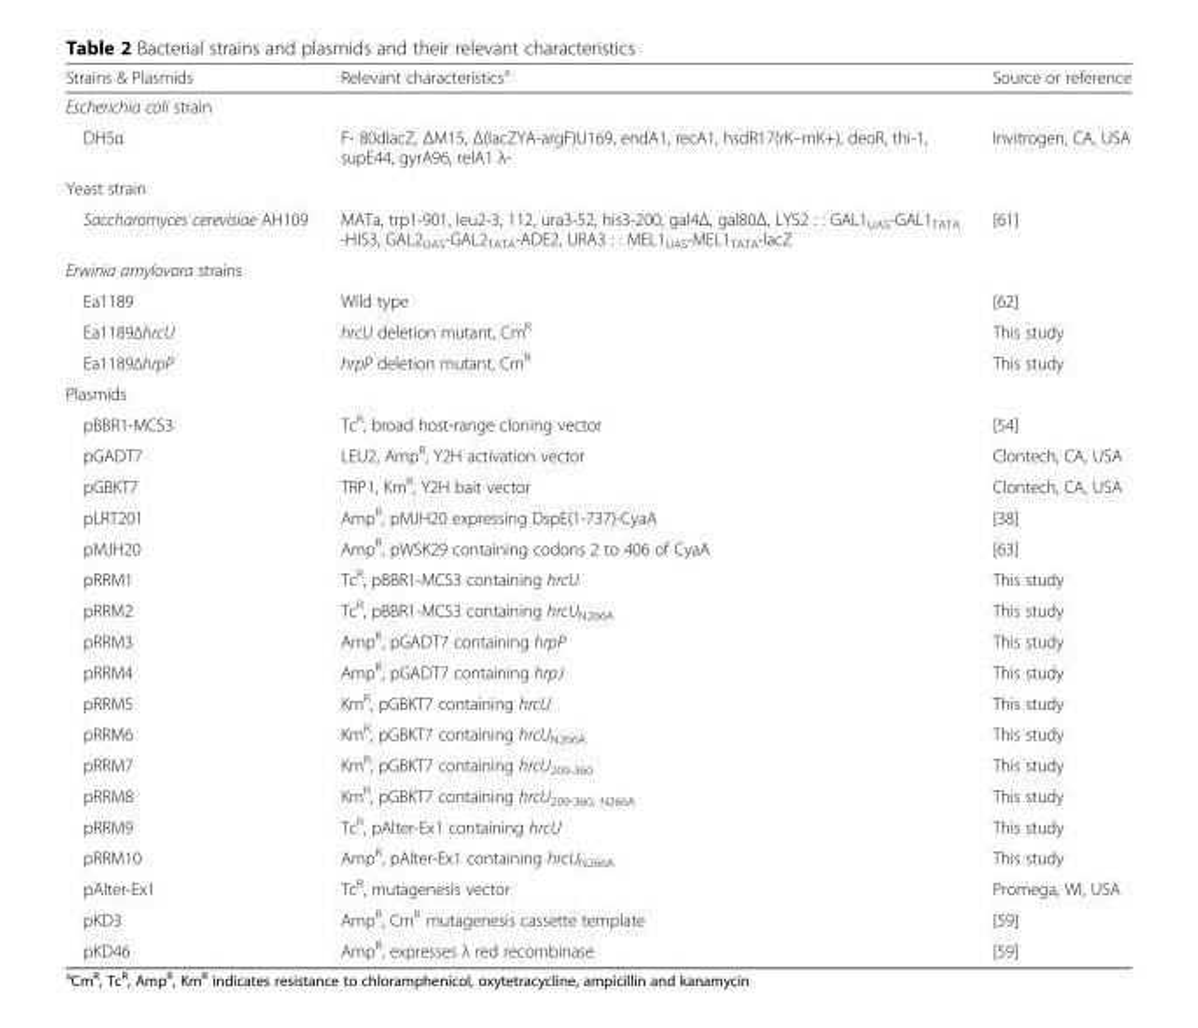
<table><thead><tr><td>Strains &amp; Plasmids</td><td>Relevant characteristics<sup>a</sup></td><td>Source or reference</td></tr></thead><tbody><tr><td colspan="3">Escherichia coli strain</td></tr><tr><td>DH5α</td><td>F- 80dlacZ, ΔM15, Δ(lacZYA-argF)U169, endA1, recA1, hsdR17(rK–mK+), deoR, thi-1, supE44, gyrA96, relA1 λ-</td><td>Invitrogen, CA, USA</td></tr><tr><td colspan="3">Yeast strain</td></tr><tr><td>Saccharomyces cerevisiae AH109</td><td>MATa, trp1-901, leu2-3, 112, ura3-52, his3-200, gal4Δ, gal80Δ, LYS2 : : GAL1<sub>UAS</sub>-GAL1<sub>TATA</sub> -HIS3, GAL2<sub>UAS</sub>-GAL2<sub>TATA</sub>-ADE2, URA3 : : MEL1<sub>UAS</sub>-MEL1<sub>TATA</sub>-lacZ</td><td>[61]</td></tr><tr><td colspan="3">Erwinia amylovora strains</td></tr><tr><td>Ea1189</td><td>Wild type</td><td>[62]</td></tr><tr><td>Ea1189ΔhrcU</td><td>hrcU deletion mutant, Cm<sup>R</sup></td><td>This study</td></tr><tr><td>Ea1189ΔhrpP</td><td>hrpP deletion mutant, Cm<sup>R</sup></td><td>This study</td></tr><tr><td colspan="3">Plasmids</td></tr><tr><td>pBBR1-MCS3</td><td>Tc<sup>R</sup>, broad host-range cloning vector</td><td>[54]</td></tr><tr><td>pGADT7</td><td>LEU2, Amp<sup>R</sup>, Y2H activation vector</td><td>Clontech, CA, USA</td></tr><tr><td>pGBKT7</td><td>TRP1, Km<sup>R</sup>, Y2H bait vector</td><td>Clontech, CA, USA</td></tr><tr><td>pLRT201</td><td>Amp<sup>R</sup>, pMJH20 expressing DspE(1-737)-CyaA</td><td>[38]</td></tr><tr><td>pMJH20</td><td>Amp<sup>R</sup>, pWSK29 containing codons 2 to 406 of CyaA</td><td>[63]</td></tr><tr><td>pRRM1</td><td>Tc<sup>R</sup>, pBBR1-MCS3 containing hrcU</td><td>This study</td></tr><tr><td>pRRM2</td><td>Tc<sup>R</sup>, pBBR1-MCS3 containing hrcU<sub>N266A</sub></td><td>This study</td></tr><tr><td>pRRM3</td><td>Amp<sup>R</sup>, pGADT7 containing hrpP</td><td>This study</td></tr><tr><td>pRRM4</td><td>Amp<sup>R</sup>, pGADT7 containing hrpJ</td><td>This study</td></tr><tr><td>pRRM5</td><td>Km<sup>R</sup>, pGBKT7 containing hrcU</td><td>This study</td></tr><tr><td>pRRM6</td><td>Km<sup>R</sup>, pGBKT7 containing hrcU<sub>N266A</sub></td><td>This study</td></tr><tr><td>pRRM7</td><td>Km<sup>R</sup>, pGBKT7 containing hrcU<sub>209-360</sub></td><td>This study</td></tr><tr><td>pRRM8</td><td>Km<sup>R</sup>, pGBKT7 containing hrcU<sub>209-360, N266A</sub></td><td>This study</td></tr><tr><td>pRRM9</td><td>Tc<sup>R</sup>, pAlter-Ex1 containing hrcU</td><td>This study</td></tr><tr><td>pRRM10</td><td>Amp<sup>R</sup>, pAlter-Ex1 containing hrcU<sub>N266A</sub></td><td>This study</td></tr><tr><td>pAlter-Ex1</td><td>Tc<sup>R</sup>, mutagenesis vector</td><td>Promega, WI, USA</td></tr><tr><td>pKD3</td><td>Amp<sup>R</sup>, Cm<sup>R</sup> mutagenesis cassette template</td><td>[59]</td></tr><tr><td>pKD46</td><td>Amp<sup>R</sup>, expresses λ red recombinase</td><td>[59]</td></tr></tbody></table>